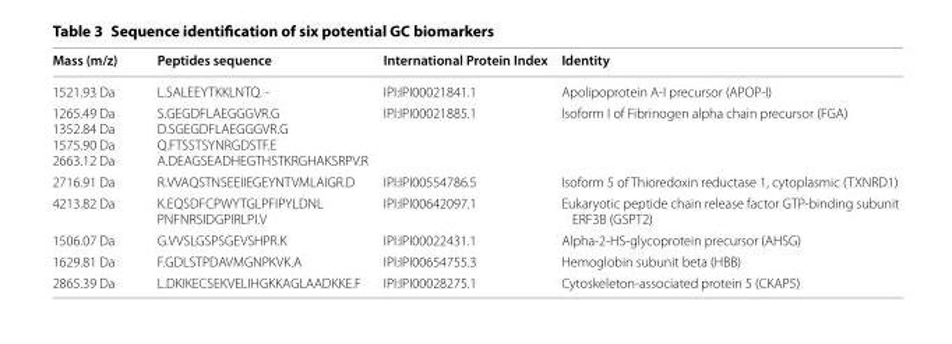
<table><thead><tr><td>Mass (m/z)</td><td>Peptides sequence</td><td>International Protein Index</td><td>Identity</td></tr></thead><tbody><tr><td>1521.93 Da</td><td>L.SALEEYTKKLNTQ. -</td><td>IPI:IPI00021841.1</td><td>Apolipoprotein A-I precursor (APOP-I)</td></tr><tr><td>1265.49 Da 1352.84 Da 1575.90 Da 2663.12 Da</td><td>S.GEGDFLAEGGGVR.G D.SGEGDFLAEGGGVR.G Q.FTSSTSYNRGDSTF.E A.DEAGSEADHEGTHSTKRGHAKSRPV.R</td><td>IPI:IPI00021885.1</td><td>Isoform I of Fibrinogen alpha chain precursor (FGA)</td></tr><tr><td>2716.91 Da</td><td>R.VVAQSTNSEEIIEGEYNTVMLAIGR.D</td><td>IPI:IPI00554786.5</td><td>Isoform 5 of Thioredoxin reductase 1, cytoplasmic (TXNRD1)</td></tr><tr><td>4213.82 Da</td><td>K.EQSDFCPWYTGLPFIPYLDNL PNFNRSIDGPIRLPI.V</td><td>IPI:IPI00642097.1</td><td>Eukaryotic peptide chain release factor GTP-binding subunit ERF3B (GSPT2)</td></tr><tr><td>1506.07 Da</td><td>G.VVSLGSPSGEVSHPR.K</td><td>IPI:IPI00022431.1</td><td>Alpha-2-HS-glycoprotein precursor (AHSG)</td></tr><tr><td>1629.81 Da</td><td>F.GDLSTPDAVMGNPKVK.A</td><td>IPI:IPI00654755.3</td><td>Hemoglobin subunit beta (HBB)</td></tr><tr><td>2865.39 Da</td><td>L.DKIKECSEKVELIHGKKAGLAADKKE.F</td><td>IPI:IPI00028275.1</td><td>Cytoskeleton-associated protein 5 (CKAP5)</td></tr></tbody></table>